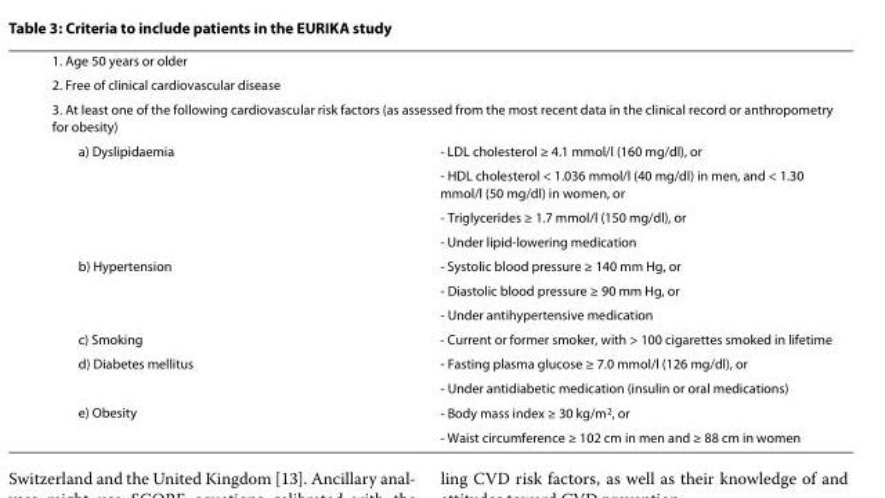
<table><tbody><tr><td colspan="2">1. Age 50 years or older</td></tr><tr><td colspan="2">2. Free of clinical cardiovascular disease</td></tr><tr><td colspan="2">3. At least one of the following cardiovascular risk factors (as assessed from the most recent data in the clinical record or anthropometry for obesity)</td></tr><tr><td rowspan="4">a) Dyslipidaemia</td><td>- LDL cholesterol ≥ 4.1 mmol/l (160 mg/dl), or</td></tr><tr><td>- HDL cholesterol &lt; 1.036 mmol/l (40 mg/dl) in men, and &lt; 1.30 mmol/l (50 mg/dl) in women, or</td></tr><tr><td>- Triglycerides ≥ 1.7 mmol/l (150 mg/dl), or</td></tr><tr><td>- Under lipid-lowering medication</td></tr><tr><td rowspan="3">b) Hypertension</td><td>- Systolic blood pressure ≥ 140 mm Hg, or</td></tr><tr><td>- Diastolic blood pressure ≥ 90 mm Hg, or</td></tr><tr><td>- Under antihypertensive medication</td></tr><tr><td>c) Smoking</td><td>- Current or former smoker, with &gt; 100 cigarettes smoked in lifetime</td></tr><tr><td rowspan="2">d) Diabetes mellitus</td><td>- Fasting plasma glucose ≥ 7.0 mmol/l (126 mg/dl), or</td></tr><tr><td>- Under antidiabetic medication (insulin or oral medications)</td></tr><tr><td rowspan="2">e) Obesity</td><td>- Body mass index ≥ 30 kg/m<sup>2</sup>, or</td></tr><tr><td>- Waist circumference ≥ 102 cm in men and ≥ 88 cm in women</td></tr></tbody></table>